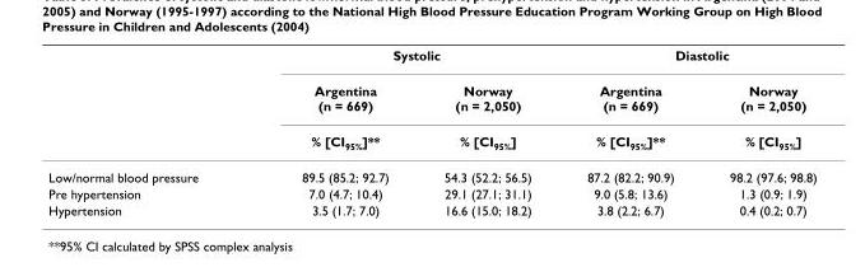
<table><thead><tr><td rowspan="3"></td><td colspan="2">Systolic</td><td colspan="2">Diastolic</td></tr><tr><td rowspan="2">Argentina (n = 669) % [CI95%]**</td><td rowspan="2">Norway (n = 2,050) % [CI95%]</td><td rowspan="2">Argentina (n = 669) % [CI95%]**</td><td rowspan="2">Norway (n = 2,050) % [CI95%]</td></tr><tr></tr></thead><tbody><tr><td>Low/normal blood pressure</td><td>89.5 (85.2; 92.7)</td><td>54.3 (52.2; 56.5)</td><td>87.2 (82.2; 90.9)</td><td>98.2 (97.6; 98.8)</td></tr><tr><td>Pre hypertension</td><td>7.0 (4.7; 10.4)</td><td>29.1 (27.1; 31.1)</td><td>9.0 (5.8; 13.6)</td><td>1.3 (0.9; 1.9)</td></tr><tr><td>Hypertension</td><td>3.5 (1.7; 7.0)</td><td>16.6 (15.0; 18.2)</td><td>3.8 (2.2; 6.7)</td><td>0.4 (0.2; 0.7)</td></tr></tbody></table>